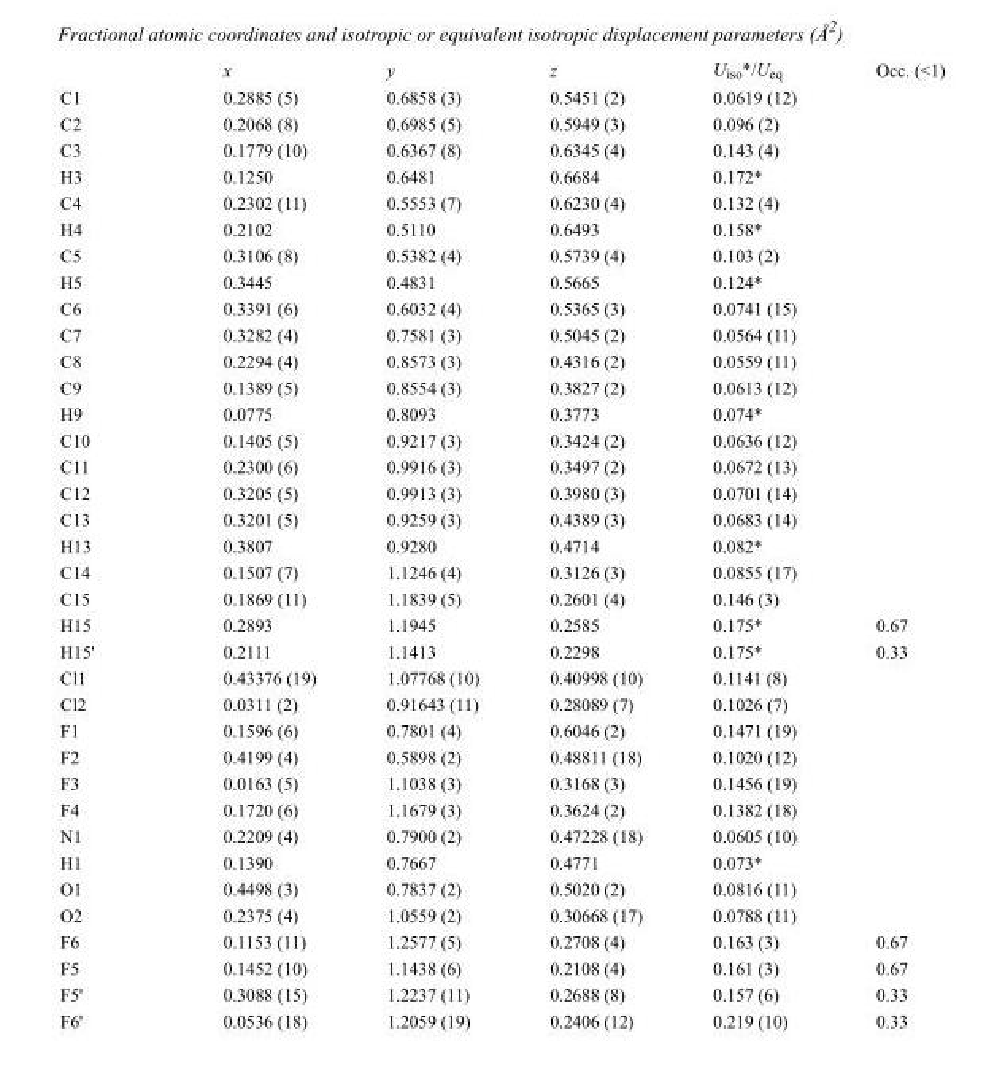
<table><thead><tr><td></td><td>x</td><td>y</td><td>z</td><td>U<sub>iso</sub>*/U<sub>eq</sub></td><td>Occ. (&lt;1)</td></tr></thead><tbody><tr><td>C1</td><td>0.2885 (5)</td><td>0.6858 (3)</td><td>0.5451 (2)</td><td>0.0619 (12)</td><td></td></tr><tr><td>C2</td><td>0.2068 (8)</td><td>0.6985 (5)</td><td>0.5949 (3)</td><td>0.096 (2)</td><td></td></tr><tr><td>C3</td><td>0.1779 (10)</td><td>0.6367 (8)</td><td>0.6345 (4)</td><td>0.143 (4)</td><td></td></tr><tr><td>H3</td><td>0.1250</td><td>0.6481</td><td>0.6684</td><td>0.172*</td><td></td></tr><tr><td>C4</td><td>0.2302 (11)</td><td>0.5553 (7)</td><td>0.6230 (4)</td><td>0.132 (4)</td><td></td></tr><tr><td>H4</td><td>0.2102</td><td>0.5110</td><td>0.6493</td><td>0.158*</td><td></td></tr><tr><td>C5</td><td>0.3106 (8)</td><td>0.5382 (4)</td><td>0.5739 (4)</td><td>0.103 (2)</td><td></td></tr><tr><td>H5</td><td>0.3445</td><td>0.4831</td><td>0.5665</td><td>0.124*</td><td></td></tr><tr><td>C6</td><td>0.3391 (6)</td><td>0.6032 (4)</td><td>0.5365 (3)</td><td>0.0741 (15)</td><td></td></tr><tr><td>C7</td><td>0.3282 (4)</td><td>0.7581 (3)</td><td>0.5045 (2)</td><td>0.0564 (11)</td><td></td></tr><tr><td>C8</td><td>0.2294 (4)</td><td>0.8573 (3)</td><td>0.4316 (2)</td><td>0.0559 (11)</td><td></td></tr><tr><td>C9</td><td>0.1389 (5)</td><td>0.8554 (3)</td><td>0.3827 (2)</td><td>0.0613 (12)</td><td></td></tr><tr><td>H9</td><td>0.0775</td><td>0.8093</td><td>0.3773</td><td>0.074*</td><td></td></tr><tr><td>C10</td><td>0.1405 (5)</td><td>0.9217 (3)</td><td>0.3424 (2)</td><td>0.0636 (12)</td><td></td></tr><tr><td>C11</td><td>0.2300 (6)</td><td>0.9916 (3)</td><td>0.3497 (2)</td><td>0.0672 (13)</td><td></td></tr><tr><td>C12</td><td>0.3205 (5)</td><td>0.9913 (3)</td><td>0.3980 (3)</td><td>0.0701 (14)</td><td></td></tr><tr><td>C13</td><td>0.3201 (5)</td><td>0.9259 (3)</td><td>0.4389 (3)</td><td>0.0683 (14)</td><td></td></tr><tr><td>H13</td><td>0.3807</td><td>0.9280</td><td>0.4714</td><td>0.082*</td><td></td></tr><tr><td>C14</td><td>0.1507 (7)</td><td>1.1246 (4)</td><td>0.3126 (3)</td><td>0.0855 (17)</td><td></td></tr><tr><td>C15</td><td>0.1869 (11)</td><td>1.1839 (5)</td><td>0.2601 (4)</td><td>0.146 (3)</td><td></td></tr><tr><td>H15</td><td>0.2893</td><td>1.1945</td><td>0.2585</td><td>0.175*</td><td>0.67</td></tr><tr><td>H15&#x27;</td><td>0.2111</td><td>1.1413</td><td>0.2298</td><td>0.175*</td><td>0.33</td></tr><tr><td>Cl1</td><td>0.43376 (19)</td><td>1.07768 (10)</td><td>0.40998 (10)</td><td>0.1141 (8)</td><td></td></tr><tr><td>Cl2</td><td>0.0311 (2)</td><td>0.91643 (11)</td><td>0.28089 (7)</td><td>0.1026 (7)</td><td></td></tr><tr><td>F1</td><td>0.1596 (6)</td><td>0.7801 (4)</td><td>0.6046 (2)</td><td>0.1471 (19)</td><td></td></tr><tr><td>F2</td><td>0.4199 (4)</td><td>0.5898 (2)</td><td>0.48811 (18)</td><td>0.1020 (12)</td><td></td></tr><tr><td>F3</td><td>0.0163 (5)</td><td>1.1038 (3)</td><td>0.3168 (3)</td><td>0.1456 (19)</td><td></td></tr><tr><td>F4</td><td>0.1720 (6)</td><td>1.1679 (3)</td><td>0.3624 (2)</td><td>0.1382 (18)</td><td></td></tr><tr><td>N1</td><td>0.2209 (4)</td><td>0.7900 (2)</td><td>0.47228 (18)</td><td>0.0605 (10)</td><td></td></tr><tr><td>H1</td><td>0.1390</td><td>0.7667</td><td>0.4771</td><td>0.073*</td><td></td></tr><tr><td>O1</td><td>0.4498 (3)</td><td>0.7837 (2)</td><td>0.5020 (2)</td><td>0.0816 (11)</td><td></td></tr><tr><td>O2</td><td>0.2375 (4)</td><td>1.0559 (2)</td><td>0.30668 (17)</td><td>0.0788 (11)</td><td></td></tr><tr><td>F6</td><td>0.1153 (11)</td><td>1.2577 (5)</td><td>0.2708 (4)</td><td>0.163 (3)</td><td>0.67</td></tr><tr><td>F5</td><td>0.1452 (10)</td><td>1.1438 (6)</td><td>0.2108 (4)</td><td>0.161 (3)</td><td>0.67</td></tr><tr><td>F5&#x27;</td><td>0.3088 (15)</td><td>1.2237 (11)</td><td>0.2688 (8)</td><td>0.157 (6)</td><td>0.33</td></tr><tr><td>F6&#x27;</td><td>0.0536 (18)</td><td>1.2059 (19)</td><td>0.2406 (12)</td><td>0.219 (10)</td><td>0.33</td></tr></tbody></table>